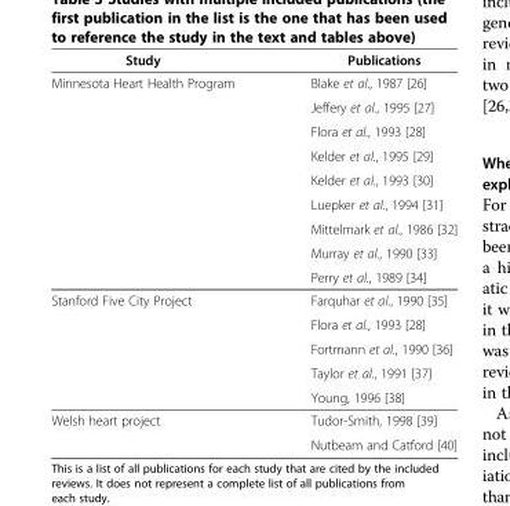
<table><thead><tr><td>Study</td><td>Publications</td></tr></thead><tbody><tr><td rowspan="9">Minnesota Heart Health Program</td><td>Blake et al., 1987 [26]</td></tr><tr><td>Jeffery et al., 1995 [27]</td></tr><tr><td>Flora et al., 1993 [28]</td></tr><tr><td>Kelder et al., 1995 [29]</td></tr><tr><td>Kelder et al., 1993 [30]</td></tr><tr><td>Luepker et al., 1994 [31]</td></tr><tr><td>Mittelmark et al., 1986 [32]</td></tr><tr><td>Murray et al., 1990 [33]</td></tr><tr><td>Perry et al., 1989 [34]</td></tr><tr><td rowspan="5">Stanford Five City Project</td><td>Farquhar et al., 1990 [35]</td></tr><tr><td>Flora et al., 1993 [28]</td></tr><tr><td>Fortmann et al., 1990 [36]</td></tr><tr><td>Taylor et al., 1991 [37]</td></tr><tr><td>Young, 1996 [38]</td></tr><tr><td rowspan="2">Welsh heart project</td><td>Tudor-Smith, 1998 [39]</td></tr><tr><td>Nutbeam and Catford [40]</td></tr></tbody></table>